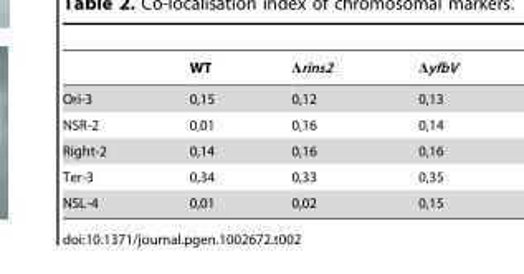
<table><thead><tr><td></td><td>WT</td><td>Δrins2</td><td>ΔyfbV</td></tr></thead><tbody><tr><td>Ori-3</td><td>0,15</td><td>0,12</td><td>0,13</td></tr><tr><td>NSR-2</td><td>0,01</td><td>0,16</td><td>0,14</td></tr><tr><td>Right-2</td><td>0,14</td><td>0,16</td><td>0,16</td></tr><tr><td>Ter-3</td><td>0,34</td><td>0,33</td><td>0,35</td></tr><tr><td>NSL-4</td><td>0,01</td><td>0,02</td><td>0,15</td></tr></tbody></table>